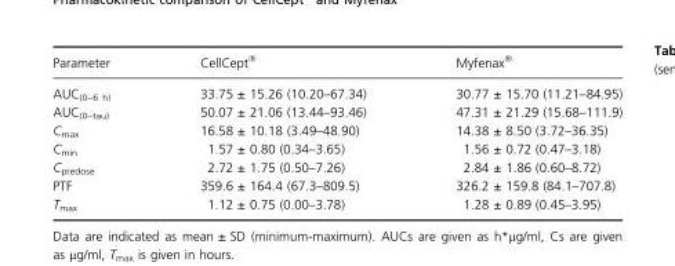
<table><thead><tr><td>Parameter</td><td>CellCept®</td><td>Myfenax®</td></tr></thead><tbody><tr><td>AUC<sub>(0–6 h)</sub></td><td>33.75 ± 15.26 (10.20–67.34)</td><td>30.77 ± 15.70 (11.21–84.95)</td></tr><tr><td>AUC<sub>(0–tau)</sub></td><td>50.07 ± 21.06 (13.44–93.46)</td><td>47.31 ± 21.29 (15.68–111.9)</td></tr><tr><td>C<sub>max</sub></td><td>16.58 ± 10.18 (3.49–48.90)</td><td>14.38 ± 8.50 (3.72–36.35)</td></tr><tr><td>C<sub>min</sub></td><td>1.57 ± 0.80 (0.34–3.65)</td><td>1.56 ± 0.72 (0.47–3.18)</td></tr><tr><td>C<sub>predose</sub></td><td>2.72 ± 1.75 (0.50–7.26)</td><td>2.84 ± 1.86 (0.60–8.72)</td></tr><tr><td>PTF</td><td>359.6 ± 164.4 (67.3–809.5)</td><td>326.2 ± 159.8 (84.1–707.8)</td></tr><tr><td>T<sub>max</sub></td><td>1.12 ± 0.75 (0.00–3.78)</td><td>1.28 ± 0.89 (0.45–3.95)</td></tr></tbody></table>